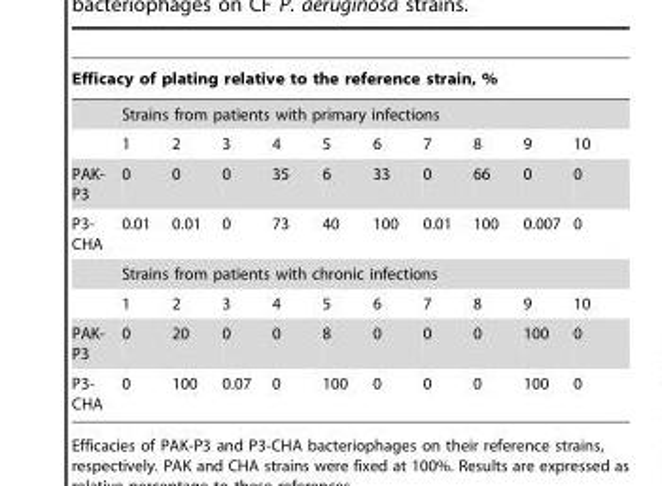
<table><thead><tr><td colspan="11">Efficacy of plating relative to the reference strain, %</td></tr><tr><td rowspan="2"></td><td colspan="10">Strains from patients with primary infections</td></tr><tr><td>1</td><td>2</td><td>3</td><td>4</td><td>5</td><td>6</td><td>7</td><td>8</td><td>9</td><td>10</td></tr></thead><tbody><tr><td>PAK- P3</td><td>0</td><td>0</td><td>0</td><td>35</td><td>6</td><td>33</td><td>0</td><td>66</td><td>0</td><td>0</td></tr><tr><td rowspan="3">P3- CHA</td><td>0.01</td><td>0.01</td><td>0</td><td>73</td><td>40</td><td>100</td><td>0.01</td><td>100</td><td>0.007</td><td>0</td></tr><tr><td colspan="10">Strains from patients with chronic infections</td></tr><tr><td>1</td><td>2</td><td>3</td><td>4</td><td>5</td><td>6</td><td>7</td><td>8</td><td>9</td><td>10</td></tr><tr><td>PAK- P3</td><td>0</td><td>20</td><td>0</td><td>0</td><td>8</td><td>0</td><td>0</td><td>0</td><td>100</td><td>0</td></tr><tr><td>P3- CHA</td><td>0</td><td>100</td><td>0.07</td><td>0</td><td>100</td><td>0</td><td>0</td><td>0</td><td>100</td><td>0</td></tr></tbody></table>